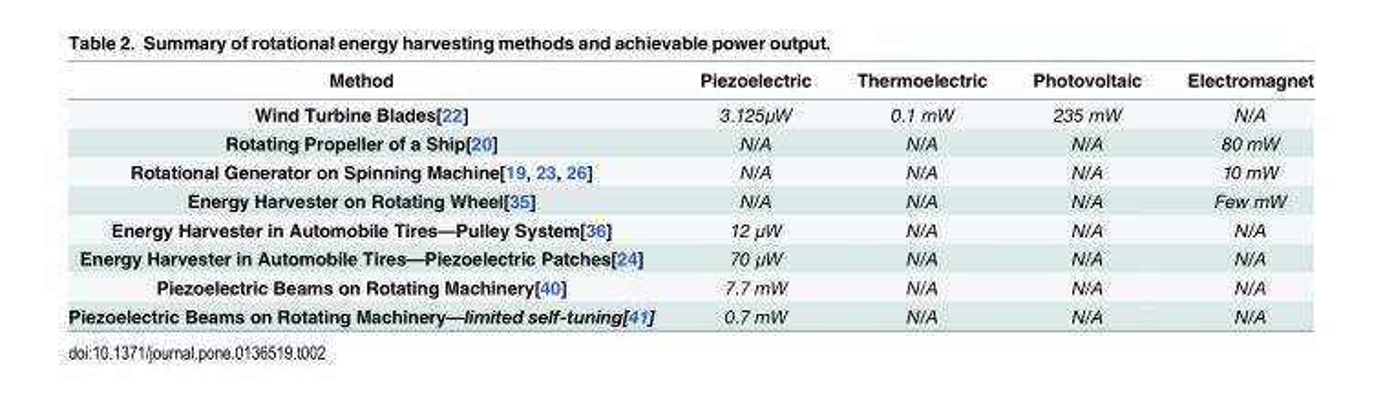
<table><thead><tr><td>Method</td><td>Piezoelectric</td><td>Thermoelectric</td><td>Photovoltaic</td><td>Electromagnet</td></tr></thead><tbody><tr><td>Wind Turbine Blades[22]</td><td>3.125μW</td><td>0.1 mW</td><td>235 mW</td><td>N/A</td></tr><tr><td>Rotating Propeller of a Ship[20]</td><td>N/A</td><td>N/A</td><td>N/A</td><td>80 mW</td></tr><tr><td>Rotational Generator on Spinning Machine[19, 23, 26]</td><td>N/A</td><td>N/A</td><td>N/A</td><td>10 mW</td></tr><tr><td>Energy Harvester on Rotating Wheel[35]</td><td>N/A</td><td>N/A</td><td>N/A</td><td>Few mW</td></tr><tr><td>Energy Harvester in Automobile Tires—Pulley System[36]</td><td>12 μW</td><td>N/A</td><td>N/A</td><td>N/A</td></tr><tr><td>Energy Harvester in Automobile Tires—Piezoelectric Patches[24]</td><td>70 μW</td><td>N/A</td><td>N/A</td><td>N/A</td></tr><tr><td>Piezoelectric Beams on Rotating Machinery[40]</td><td>7.7 mW</td><td>N/A</td><td>N/A</td><td>N/A</td></tr><tr><td>Piezoelectric Beams on Rotating Machinery—limited self-tuning[41]</td><td>0.7 mW</td><td>N/A</td><td>N/A</td><td>N/A</td></tr></tbody></table>